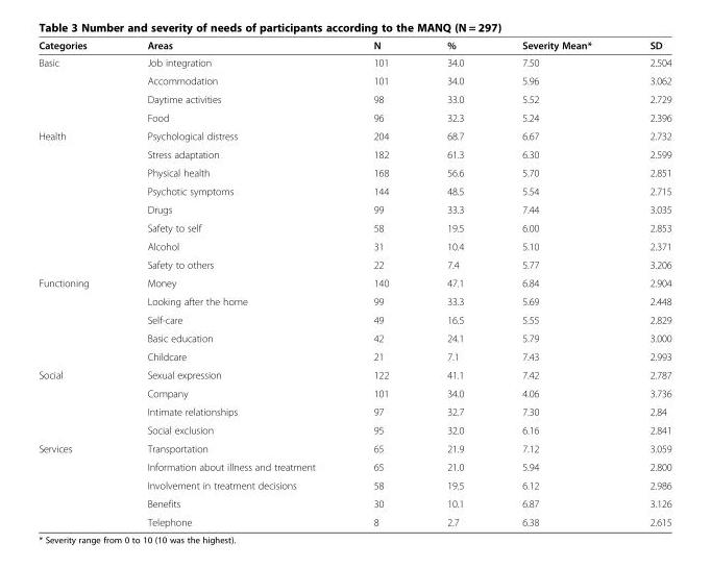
<table><thead><tr><td>Categories</td><td>Areas</td><td>N</td><td>%</td><td>Severity Mean*</td><td>SD</td></tr></thead><tbody><tr><td rowspan="4">Basic</td><td>Job integration</td><td>101</td><td>34.0</td><td>7.50</td><td>2.504</td></tr><tr><td>Accommodation</td><td>101</td><td>34.0</td><td>5.96</td><td>3.062</td></tr><tr><td>Daytime activities</td><td>98</td><td>33.0</td><td>5.52</td><td>2.729</td></tr><tr><td>Food</td><td>96</td><td>32.3</td><td>5.24</td><td>2.396</td></tr><tr><td rowspan="8">Health</td><td>Psychological distress</td><td>204</td><td>68.7</td><td>6.67</td><td>2.732</td></tr><tr><td>Stress adaptation</td><td>182</td><td>61.3</td><td>6.30</td><td>2.599</td></tr><tr><td>Physical health</td><td>168</td><td>56.6</td><td>5.70</td><td>2.851</td></tr><tr><td>Psychotic symptoms</td><td>144</td><td>48.5</td><td>5.54</td><td>2.715</td></tr><tr><td>Drugs</td><td>99</td><td>33.3</td><td>7.44</td><td>3.035</td></tr><tr><td>Safety to self</td><td>58</td><td>19.5</td><td>6.00</td><td>2.853</td></tr><tr><td>Alcohol</td><td>31</td><td>10.4</td><td>5.10</td><td>2.371</td></tr><tr><td>Safety to others</td><td>22</td><td>7.4</td><td>5.77</td><td>3.206</td></tr><tr><td rowspan="5">Functioning</td><td>Money</td><td>140</td><td>47.1</td><td>6.84</td><td>2.904</td></tr><tr><td>Looking after the home</td><td>99</td><td>33.3</td><td>5.69</td><td>2.448</td></tr><tr><td>Self-care</td><td>49</td><td>16.5</td><td>5.55</td><td>2.829</td></tr><tr><td>Basic education</td><td>42</td><td>24.1</td><td>5.79</td><td>3.000</td></tr><tr><td>Childcare</td><td>21</td><td>7.1</td><td>7.43</td><td>2.993</td></tr><tr><td rowspan="4">Social</td><td>Sexual expression</td><td>122</td><td>41.1</td><td>7.42</td><td>2.787</td></tr><tr><td>Company</td><td>101</td><td>34.0</td><td>4.06</td><td>3.736</td></tr><tr><td>Intimate relationships</td><td>97</td><td>32.7</td><td>7.30</td><td>2.84</td></tr><tr><td>Social exclusion</td><td>95</td><td>32.0</td><td>6.16</td><td>2.841</td></tr><tr><td rowspan="5">Services</td><td>Transportation</td><td>65</td><td>21.9</td><td>7.12</td><td>3.059</td></tr><tr><td>Information about illness and treatment</td><td>65</td><td>21.0</td><td>5.94</td><td>2.800</td></tr><tr><td>Involvement in treatment decisions</td><td>58</td><td>19.5</td><td>6.12</td><td>2.986</td></tr><tr><td>Benefits</td><td>30</td><td>10.1</td><td>6.87</td><td>3.126</td></tr><tr><td>Telephone</td><td>8</td><td>2.7</td><td>6.38</td><td>2.615</td></tr></tbody></table>